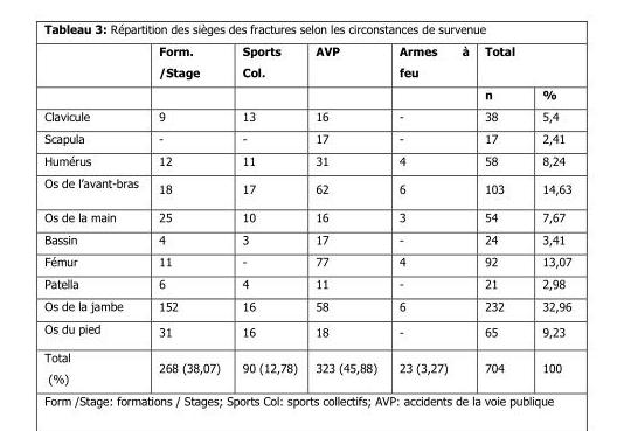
<table><thead><tr><td rowspan="2"></td><td rowspan="2">Form. /Stage</td><td rowspan="2">Sports Col.</td><td rowspan="2">AVP</td><td rowspan="2">Armes à feu</td><td colspan="2">Total</td></tr><tr><td>n</td><td>%</td></tr></thead><tbody><tr><td>Clavicule</td><td>9</td><td>13</td><td>16</td><td>-</td><td>38</td><td>5,4</td></tr><tr><td>Scapula</td><td>-</td><td>-</td><td>17</td><td>-</td><td>17</td><td>2,41</td></tr><tr><td>Humérus</td><td>12</td><td>11</td><td>31</td><td>4</td><td>58</td><td>8,24</td></tr><tr><td>Os de l’avant-bras</td><td>18</td><td>17</td><td>62</td><td>6</td><td>103</td><td>14,63</td></tr><tr><td>Os de la main</td><td>25</td><td>10</td><td>16</td><td>3</td><td>54</td><td>7,67</td></tr><tr><td>Bassin</td><td>4</td><td>3</td><td>17</td><td>-</td><td>24</td><td>3,41</td></tr><tr><td>Fémur</td><td>11</td><td>-</td><td>77</td><td>4</td><td>92</td><td>13,07</td></tr><tr><td>Patella</td><td>6</td><td>4</td><td>11</td><td>-</td><td>21</td><td>2,98</td></tr><tr><td>Os de la jambe</td><td>152</td><td>16</td><td>58</td><td>6</td><td>232</td><td>32,96</td></tr><tr><td>Os du pied</td><td>31</td><td>16</td><td>18</td><td>-</td><td>65</td><td>9,23</td></tr><tr><td>Total (%)</td><td>268 (38,07)</td><td>90 (12,78)</td><td>323 (45,88)</td><td>23 (3,27)</td><td>704</td><td>100</td></tr></tbody></table>